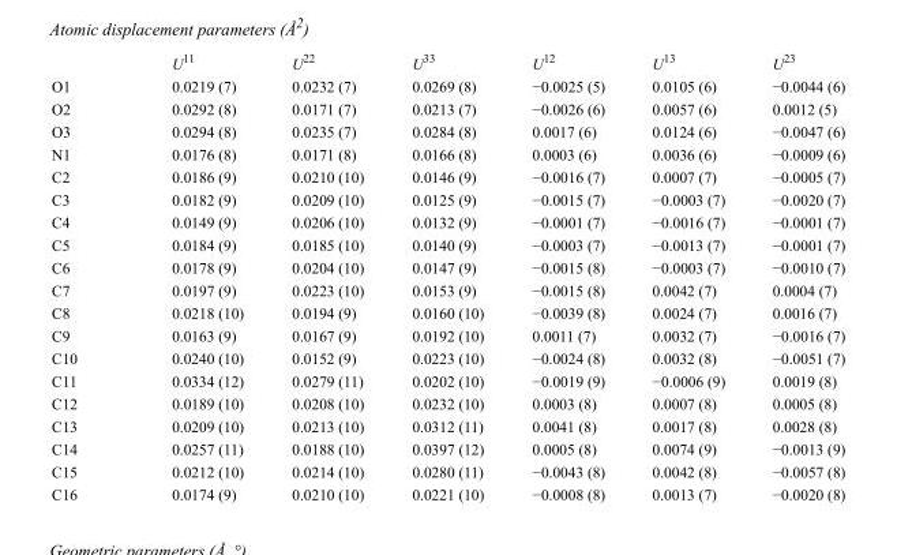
<table><thead><tr><td></td><td>U<sup>11</sup></td><td>U<sup>22</sup></td><td>U<sup>33</sup></td><td>U<sup>12</sup></td><td>U<sup>13</sup></td><td>U<sup>23</sup></td></tr></thead><tbody><tr><td>O1</td><td>0.0219 (7)</td><td>0.0232 (7)</td><td>0.0269 (8)</td><td>−0.0025 (5)</td><td>0.0105 (6)</td><td>−0.0044 (6)</td></tr><tr><td>O2</td><td>0.0292 (8)</td><td>0.0171 (7)</td><td>0.0213 (7)</td><td>−0.0026 (6)</td><td>0.0057 (6)</td><td>0.0012 (5)</td></tr><tr><td>O3</td><td>0.0294 (8)</td><td>0.0235 (7)</td><td>0.0284 (8)</td><td>0.0017 (6)</td><td>0.0124 (6)</td><td>−0.0047 (6)</td></tr><tr><td>N1</td><td>0.0176 (8)</td><td>0.0171 (8)</td><td>0.0166 (8)</td><td>0.0003 (6)</td><td>0.0036 (6)</td><td>−0.0009 (6)</td></tr><tr><td>C2</td><td>0.0186 (9)</td><td>0.0210 (10)</td><td>0.0146 (9)</td><td>−0.0016 (7)</td><td>0.0007 (7)</td><td>−0.0005 (7)</td></tr><tr><td>C3</td><td>0.0182 (9)</td><td>0.0209 (10)</td><td>0.0125 (9)</td><td>−0.0015 (7)</td><td>−0.0003 (7)</td><td>−0.0020 (7)</td></tr><tr><td>C4</td><td>0.0149 (9)</td><td>0.0206 (10)</td><td>0.0132 (9)</td><td>−0.0001 (7)</td><td>−0.0016 (7)</td><td>−0.0001 (7)</td></tr><tr><td>C5</td><td>0.0184 (9)</td><td>0.0185 (10)</td><td>0.0140 (9)</td><td>−0.0003 (7)</td><td>−0.0013 (7)</td><td>−0.0001 (7)</td></tr><tr><td>C6</td><td>0.0178 (9)</td><td>0.0204 (10)</td><td>0.0147 (9)</td><td>−0.0015 (8)</td><td>−0.0003 (7)</td><td>−0.0010 (7)</td></tr><tr><td>C7</td><td>0.0197 (9)</td><td>0.0223 (10)</td><td>0.0153 (9)</td><td>−0.0015 (8)</td><td>0.0042 (7)</td><td>0.0004 (7)</td></tr><tr><td>C8</td><td>0.0218 (10)</td><td>0.0194 (9)</td><td>0.0160 (10)</td><td>−0.0039 (8)</td><td>0.0024 (7)</td><td>0.0016 (7)</td></tr><tr><td>C9</td><td>0.0163 (9)</td><td>0.0167 (9)</td><td>0.0192 (10)</td><td>0.0011 (7)</td><td>0.0032 (7)</td><td>−0.0016 (7)</td></tr><tr><td>C10</td><td>0.0240 (10)</td><td>0.0152 (9)</td><td>0.0223 (10)</td><td>−0.0024 (8)</td><td>0.0032 (8)</td><td>−0.0051 (7)</td></tr><tr><td>C11</td><td>0.0334 (12)</td><td>0.0279 (11)</td><td>0.0202 (10)</td><td>−0.0019 (9)</td><td>−0.0006 (9)</td><td>0.0019 (8)</td></tr><tr><td>C12</td><td>0.0189 (10)</td><td>0.0208 (10)</td><td>0.0232 (10)</td><td>0.0003 (8)</td><td>0.0007 (8)</td><td>0.0005 (8)</td></tr><tr><td>C13</td><td>0.0209 (10)</td><td>0.0213 (10)</td><td>0.0312 (11)</td><td>0.0041 (8)</td><td>0.0017 (8)</td><td>0.0028 (8)</td></tr><tr><td>C14</td><td>0.0257 (11)</td><td>0.0188 (10)</td><td>0.0397 (12)</td><td>0.0005 (8)</td><td>0.0074 (9)</td><td>−0.0013 (9)</td></tr><tr><td>C15</td><td>0.0212 (10)</td><td>0.0214 (10)</td><td>0.0280 (11)</td><td>−0.0043 (8)</td><td>0.0042 (8)</td><td>−0.0057 (8)</td></tr><tr><td>C16</td><td>0.0174 (9)</td><td>0.0210 (10)</td><td>0.0221 (10)</td><td>−0.0008 (8)</td><td>0.0013 (7)</td><td>−0.0020 (8)</td></tr></tbody></table>